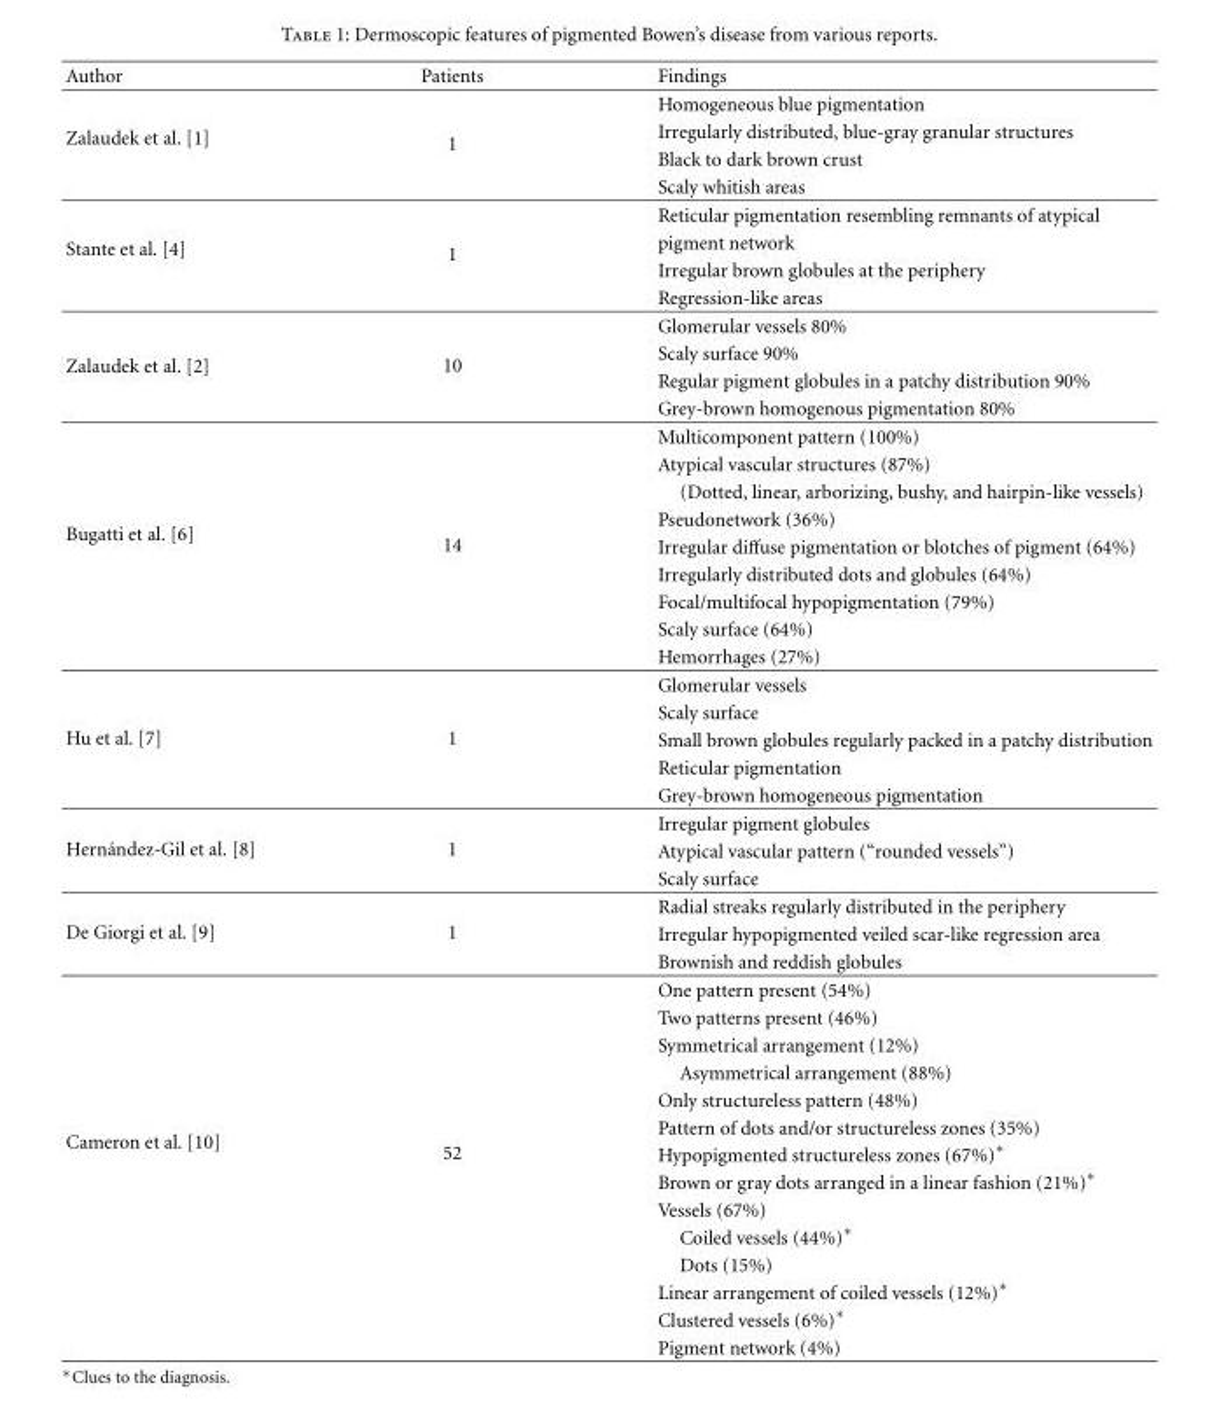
<table><thead><tr><td>Author</td><td>Patients</td><td>Findings</td></tr></thead><tbody><tr><td rowspan="4">Zalaudek et al. [1]</td><td rowspan="4">1</td><td>Homogeneous blue pigmentation</td></tr><tr><td>Irregularly distributed, blue-gray granular structures</td></tr><tr><td>Black to dark brown crust</td></tr><tr><td>Scaly whitish areas</td></tr><tr><td rowspan="4">Stante et al. [4]</td><td rowspan="4">1</td><td>Reticular pigmentation resembling remnants of atypical</td></tr><tr><td>pigment network</td></tr><tr><td>Irregular brown globules at the periphery</td></tr><tr><td>Regression-like areas</td></tr><tr><td rowspan="4">Zalaudek et al. [2]</td><td rowspan="4">10</td><td>Glomerular vessels 80%</td></tr><tr><td>Scaly surface 90%</td></tr><tr><td>Regular pigment globules in a patchy distribution 90%</td></tr><tr><td>Grey-brown homogenous pigmentation 80%</td></tr><tr><td rowspan="9">Bugatti et al. [6]</td><td rowspan="9">14</td><td>Multicomponent pattern (100%)</td></tr><tr><td>Atypical vascular structures (87%)</td></tr><tr><td>(Dotted, linear, arborizing, bushy, and hairpin-like vessels)</td></tr><tr><td>Pseudonetwork (36%)</td></tr><tr><td>Irregular diffuse pigmentation or blotches of pigment (64%)</td></tr><tr><td>Irregularly distributed dots and globules (64%)</td></tr><tr><td>Focal/multifocal hypopigmentation (79%)</td></tr><tr><td>Scaly surface (64%)</td></tr><tr><td>Hemorrhages (27%)</td></tr><tr><td rowspan="5">Hu et al. [7]</td><td rowspan="5">1</td><td>Glomerular vessels</td></tr><tr><td>Scaly surface</td></tr><tr><td>Small brown globules regularly packed in a patchy distribution</td></tr><tr><td>Reticular pigmentation</td></tr><tr><td>Grey-brown homogeneous pigmentation</td></tr><tr><td rowspan="3">Hern´andez-Gil et al. [8]</td><td rowspan="3">1</td><td>Irregular pigment globules</td></tr><tr><td>Atypical vascular pattern (“rounded vessels”)</td></tr><tr><td>Scaly surface</td></tr><tr><td rowspan="3">De Giorgi et al. [9]</td><td rowspan="3">1</td><td>Radial streaks regularly distributed in the periphery</td></tr><tr><td>Irregular hypopigmented veiled scar-like regression area</td></tr><tr><td>Brownish and reddish globules</td></tr><tr><td rowspan="14">Cameron et al. [10]</td><td rowspan="13">52</td><td>One pattern present (54%)</td></tr><tr><td>Two patterns present (46%)</td></tr><tr><td>Symmetrical arrangement (12%)</td></tr><tr><td>Asymmetrical arrangement (88%)</td></tr><tr><td>Only structureless pattern (48%)</td></tr><tr><td>Pattern of dots and/or structureless zones (35%)</td></tr><tr><td>Hypopigmented structureless zones (67%)∗</td></tr><tr><td>Brown or gray dots arranged in a linear fashion (21%)∗</td></tr><tr><td>Vessels (67%)</td></tr><tr><td>Coiled vessels (44%)∗</td></tr><tr><td>Dots (15%)</td></tr><tr><td>Linear arrangement of coiled vessels (12%)∗</td></tr><tr><td>Clustered vessels (6%)∗</td></tr><tr><td></td><td>Pigment network (4%)</td></tr></tbody></table>